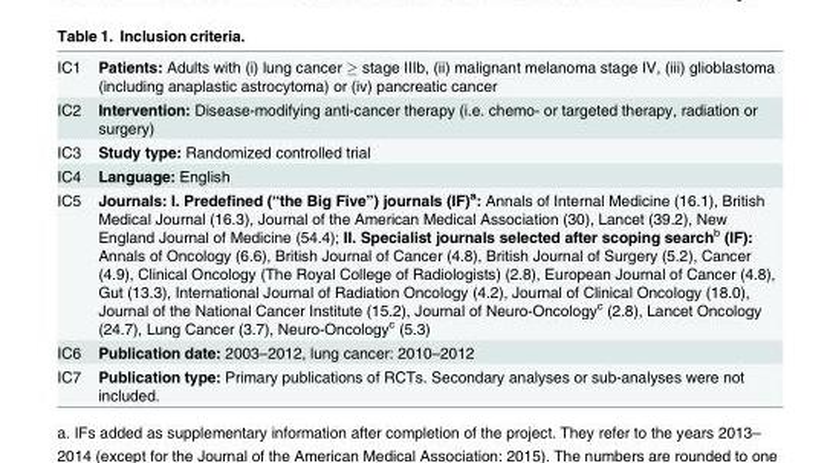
<table><tbody><tr><td>IC1</td><td>Patients: Adults with (i) lung cancer ≥ stage IIIb, (ii) malignant melanoma stage IV, (iii) glioblastoma (including anaplastic astrocytoma) or (iv) pancreatic cancer</td></tr><tr><td>IC2</td><td>Intervention: Disease-modifying anti-cancer therapy (i.e. chemo- or targeted therapy, radiation or surgery)</td></tr><tr><td>IC3</td><td>Study type: Randomized controlled trial</td></tr><tr><td>IC4</td><td>Language: English</td></tr><tr><td>IC5</td><td>Journals: I. Predefined (“the Big Five”) journals (IF)<sup>a</sup>: Annals of Internal Medicine (16.1), British Medical Journal (16.3), Journal of the American Medical Association (30), Lancet (39.2), New England Journal of Medicine (54.4); II. Specialist journals selected after scoping search<sup>b</sup> (IF): Annals of Oncology (6.6), British Journal of Cancer (4.8), British Journal of Surgery (5.2), Cancer (4.9), Clinical Oncology (The Royal College of Radiologists) (2.8), European Journal of Cancer (4.8), Gut (13.3), International Journal of Radiation Oncology (4.2), Journal of Clinical Oncology (18.0), Journal of the National Cancer Institute (15.2), Journal of Neuro-Oncology<sup>c</sup> (2.8), Lancet Oncology (24.7), Lung Cancer (3.7), Neuro-Oncology<sup>c</sup> (5.3)</td></tr><tr><td>IC6</td><td>Publication date: 2003–2012, lung cancer: 2010–2012</td></tr><tr><td>IC7</td><td>Publication type: Primary publications of RCTs. Secondary analyses or sub-analyses were not included.</td></tr></tbody></table>